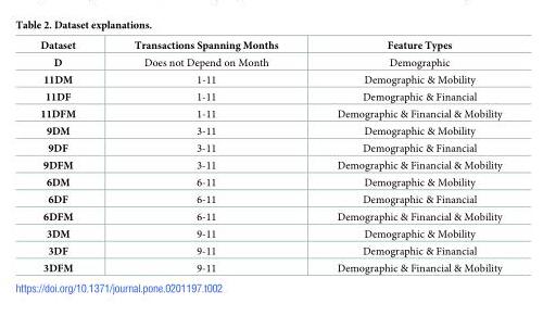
<table><thead><tr><td>Dataset</td><td>Transactions Spanning Months</td><td>Feature Types</td></tr></thead><tbody><tr><td>D</td><td>Does not Depend on Month</td><td>Demographic</td></tr><tr><td>11DM</td><td>1-11</td><td>Demographic &amp; Mobility</td></tr><tr><td>11DF</td><td>1-11</td><td>Demographic &amp; Financial</td></tr><tr><td>11DFM</td><td>1-11</td><td>Demographic &amp; Financial &amp; Mobility</td></tr><tr><td>9DM</td><td>3-11</td><td>Demographic &amp; Mobility</td></tr><tr><td>9DF</td><td>3-11</td><td>Demographic &amp; Financial</td></tr><tr><td>9DFM</td><td>3-11</td><td>Demographic &amp; Financial &amp; Mobility</td></tr><tr><td>6DM</td><td>6-11</td><td>Demographic &amp; Mobility</td></tr><tr><td>6DF</td><td>6-11</td><td>Demographic &amp; Financial</td></tr><tr><td>6DFM</td><td>6-11</td><td>Demographic &amp; Financial &amp; Mobility</td></tr><tr><td>3DM</td><td>9-11</td><td>Demographic &amp; Mobility</td></tr><tr><td>3DF</td><td>9-11</td><td>Demographic &amp; Financial</td></tr><tr><td>3DFM</td><td>9-11</td><td>Demographic &amp; Financial &amp; Mobility</td></tr></tbody></table>